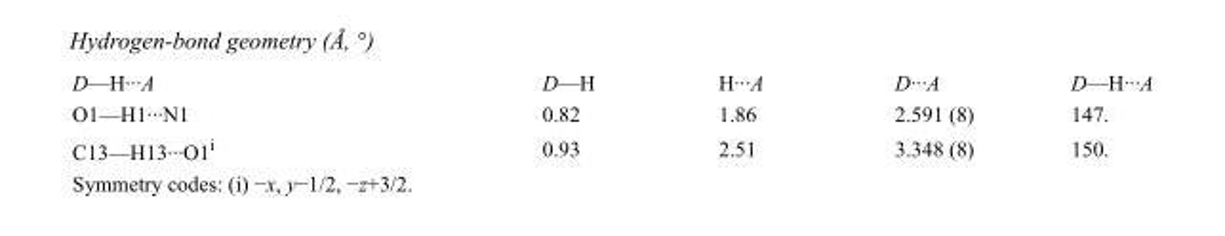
<table><tbody><tr><td>D—H···A</td><td>D—H</td><td>H···A</td><td>D···A</td><td>D—H···A</td></tr><tr><td>O1—H1···N1</td><td>0.82</td><td>1.86</td><td>2.591 (8)</td><td>147.</td></tr><tr><td>C13—H13···O1<sup>i</sup></td><td>0.93</td><td>2.51</td><td>3.348 (8)</td><td>150.</td></tr></tbody></table>